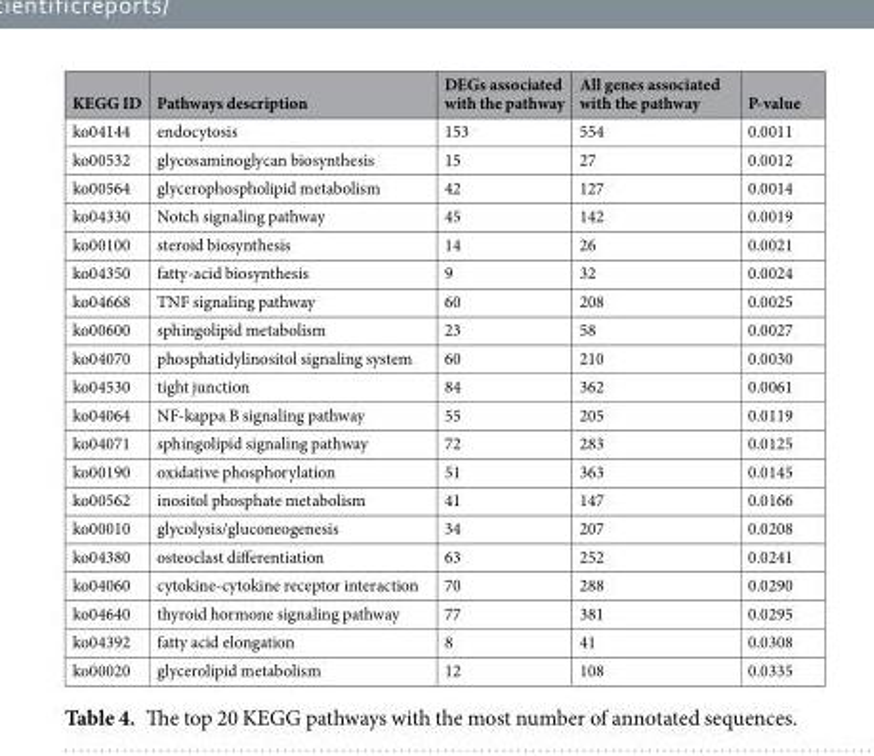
<table><thead><tr><td>KEGG ID</td><td>Pathways description</td><td>DEGs associated with the pathway</td><td>All genes associated with the pathway</td><td>P-value</td></tr></thead><tbody><tr><td>ko04144</td><td>endocytosis</td><td>153</td><td>554</td><td>0.0011</td></tr><tr><td>ko00532</td><td>glycosaminoglycan biosynthesis</td><td>15</td><td>27</td><td>0.0012</td></tr><tr><td>ko00564</td><td>glycerophospholipid metabolism</td><td>42</td><td>127</td><td>0.0014</td></tr><tr><td>ko04330</td><td>Notch signaling pathway</td><td>45</td><td>142</td><td>0.0019</td></tr><tr><td>ko00100</td><td>steroid biosynthesis</td><td>14</td><td>26</td><td>0.0021</td></tr><tr><td>ko04350</td><td>fatty-acid biosynthesis</td><td>9</td><td>32</td><td>0.0024</td></tr><tr><td>ko04668</td><td>TNF signaling pathway</td><td>60</td><td>208</td><td>0.0025</td></tr><tr><td>ko00600</td><td>sphingolipid metabolism</td><td>23</td><td>58</td><td>0.0027</td></tr><tr><td>ko04070</td><td>phosphatidylinositol signaling system</td><td>60</td><td>210</td><td>0.0030</td></tr><tr><td>ko04530</td><td>tight junction</td><td>84</td><td>362</td><td>0.0061</td></tr><tr><td>ko04064</td><td>NF-kappa B signaling pathway</td><td>55</td><td>205</td><td>0.0119</td></tr><tr><td>ko04071</td><td>sphingolipid signaling pathway</td><td>72</td><td>283</td><td>0.0125</td></tr><tr><td>ko00190</td><td>oxidative phosphorylation</td><td>51</td><td>363</td><td>0.0145</td></tr><tr><td>ko00562</td><td>inositol phosphate metabolism</td><td>41</td><td>147</td><td>0.0166</td></tr><tr><td>ko00010</td><td>glycolysis/gluconeogenesis</td><td>34</td><td>207</td><td>0.0208</td></tr><tr><td>ko04380</td><td>osteoclast differentiation</td><td>63</td><td>252</td><td>0.0241</td></tr><tr><td>ko04060</td><td>cytokine-cytokine receptor interaction</td><td>70</td><td>288</td><td>0.0290</td></tr><tr><td>ko04640</td><td>thyroid hormone signaling pathway</td><td>77</td><td>381</td><td>0.0295</td></tr><tr><td>ko04392</td><td>fatty acid elongation</td><td>8</td><td>41</td><td>0.0308</td></tr><tr><td>ko00020</td><td>glycerolipid metabolism</td><td>12</td><td>108</td><td>0.0335</td></tr></tbody></table>